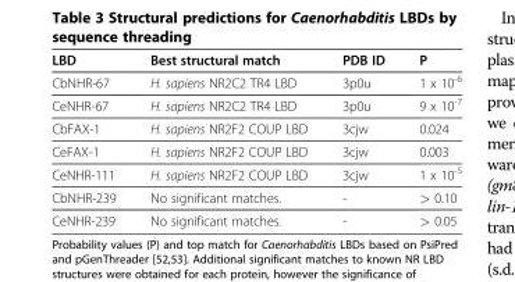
<table><thead><tr><td>LBD</td><td>Best structural match</td><td>PDB ID</td><td>P</td></tr></thead><tbody><tr><td>CbNHR-67</td><td>H. sapiens NR2C2 TR4 LBD</td><td>3p0u</td><td>1 x 10<sup>-6</sup></td></tr><tr><td>CeNHR-67</td><td>H. sapiens NR2C2 TR4 LBD</td><td>3p0u</td><td>9 x 10<sup>-7</sup></td></tr><tr><td>CbFAX-1</td><td>H. sapiens NR2F2 COUP LBD</td><td>3cjw</td><td>0.024</td></tr><tr><td>CeFAX-1</td><td>H. sapiens NR2F2 COUP LBD</td><td>3cjw</td><td>0.003</td></tr><tr><td>CeNHR-111</td><td>H. sapiens NR2F2 COUP LBD</td><td>3cjw</td><td>1 x 10<sup>-5</sup></td></tr><tr><td>CbNHR-239</td><td>No significant matches.</td><td>-</td><td>&gt; 0.10</td></tr><tr><td>CeNHR-239</td><td>No significant matches.</td><td>-</td><td>&gt; 0.05</td></tr></tbody></table>